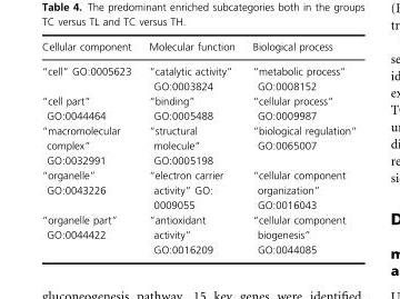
<table><thead><tr><td>Cellular component</td><td>Molecular function</td><td>Biological process</td></tr></thead><tbody><tr><td>“cell” GO:0005623</td><td>“catalytic activity” GO:0003824</td><td>“metabolic process” GO:0008152</td></tr><tr><td>“cell part” GO:0044464</td><td>“binding” GO:0005488</td><td>“cellular process” GO:0009987</td></tr><tr><td>“macromolecular complex” GO:0032991</td><td>“structural molecule” GO:0005198</td><td>“biological regulation” GO:0065007</td></tr><tr><td>“organelle” GO:0043226</td><td>“electron carrier activity” GO: 0009055</td><td>“cellular component organization” GO:0016043</td></tr><tr><td>“organelle part” GO:0044422</td><td>“antioxidant activity” GO:0016209</td><td>“cellular component biogenesis” GO:0044085</td></tr></tbody></table>